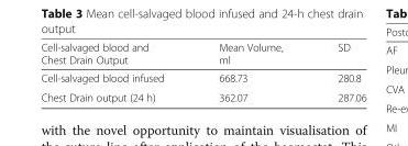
<table><thead><tr><td>Cell-salvaged blood and Chest Drain Output</td><td>Mean Volume, ml</td><td>SD</td></tr></thead><tbody><tr><td>Cell-salvaged blood infused</td><td>668.73</td><td>280.8</td></tr><tr><td>Chest Drain output (24 h)</td><td>362.07</td><td>287.06</td></tr></tbody></table>